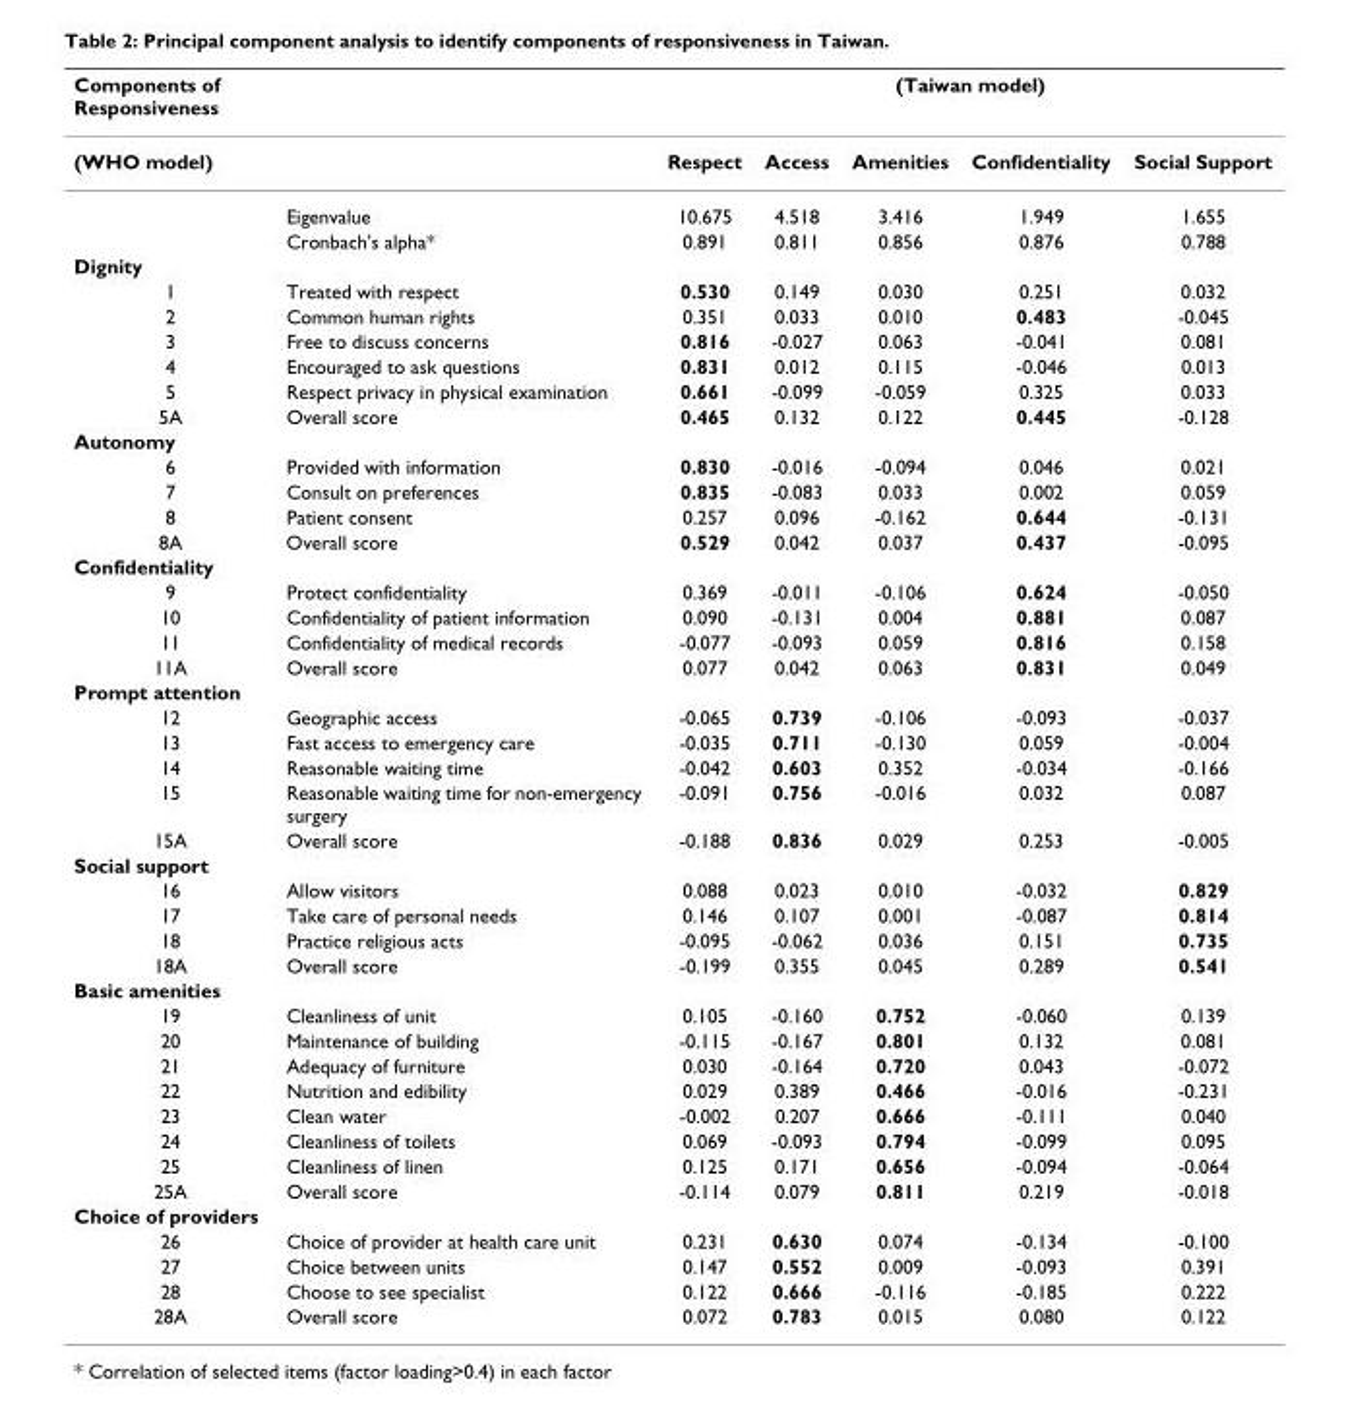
<table><thead><tr><td rowspan="2">Components of Responsiveness (WHO model)</td><td rowspan="2"></td><td colspan="5">(Taiwan model)</td></tr><tr><td>Respect</td><td>Access</td><td>Amenities</td><td>Confidentiality</td><td>Social Support</td></tr></thead><tbody><tr><td></td><td>Eigenvalue</td><td>10.675</td><td>4.518</td><td>3.416</td><td>1.949</td><td>1.655</td></tr><tr><td></td><td>Cronbach&#x27;s alpha*</td><td>0.891</td><td>0.811</td><td>0.856</td><td>0.876</td><td>0.788</td></tr><tr><td colspan="7">Dignity</td></tr><tr><td>1</td><td>Treated with respect</td><td>0.530</td><td>0.149</td><td>0.030</td><td>0.251</td><td>0.032</td></tr><tr><td>2</td><td>Common human rights</td><td>0.351</td><td>0.033</td><td>0.010</td><td>0.483</td><td>-0.045</td></tr><tr><td>3</td><td>Free to discuss concerns</td><td>0.816</td><td>-0.027</td><td>0.063</td><td>-0.041</td><td>0.081</td></tr><tr><td>4</td><td>Encouraged to ask questions</td><td>0.831</td><td>0.012</td><td>0.115</td><td>-0.046</td><td>0.013</td></tr><tr><td>5</td><td>Respect privacy in physical examination</td><td>0.661</td><td>-0.099</td><td>-0.059</td><td>0.325</td><td>0.033</td></tr><tr><td>5A</td><td>Overall score</td><td>0.465</td><td>0.132</td><td>0.122</td><td>0.445</td><td>-0.128</td></tr><tr><td colspan="7">Autonomy</td></tr><tr><td>6</td><td>Provided with information</td><td>0.830</td><td>-0.016</td><td>-0.094</td><td>0.046</td><td>0.021</td></tr><tr><td>7</td><td>Consult on preferences</td><td>0.835</td><td>-0.083</td><td>0.033</td><td>0.002</td><td>0.059</td></tr><tr><td>8</td><td>Patient consent</td><td>0.257</td><td>0.096</td><td>-0.162</td><td>0.644</td><td>-0.131</td></tr><tr><td>8A</td><td>Overall score</td><td>0.529</td><td>0.042</td><td>0.037</td><td>0.437</td><td>-0.095</td></tr><tr><td colspan="7">Confidentiality</td></tr><tr><td>9</td><td>Protect confidentiality</td><td>0.369</td><td>-0.011</td><td>-0.106</td><td>0.624</td><td>-0.050</td></tr><tr><td>10</td><td>Confidentiality of patient information</td><td>0.090</td><td>-0.131</td><td>0.004</td><td>0.881</td><td>0.087</td></tr><tr><td>11</td><td>Confidentiality of medical records</td><td>-0.077</td><td>-0.093</td><td>0.059</td><td>0.816</td><td>0.158</td></tr><tr><td>11A</td><td>Overall score</td><td>0.077</td><td>0.042</td><td>0.063</td><td>0.831</td><td>0.049</td></tr><tr><td colspan="7">Prompt attention</td></tr><tr><td>12</td><td>Geographic access</td><td>-0.065</td><td>0.739</td><td>-0.106</td><td>-0.093</td><td>-0.037</td></tr><tr><td>13</td><td>Fast access to emergency care</td><td>-0.035</td><td>0.711</td><td>-0.130</td><td>0.059</td><td>-0.004</td></tr><tr><td>14</td><td>Reasonable waiting time</td><td>-0.042</td><td>0.603</td><td>0.352</td><td>-0.034</td><td>-0.166</td></tr><tr><td>15</td><td>Reasonable waiting time for non-emergency surgery</td><td>-0.091</td><td>0.756</td><td>-0.016</td><td>0.032</td><td>0.087</td></tr><tr><td>15A</td><td>Overall score</td><td>-0.188</td><td>0.836</td><td>0.029</td><td>0.253</td><td>-0.005</td></tr><tr><td colspan="7">Social support</td></tr><tr><td>16</td><td>Allow visitors</td><td>0.088</td><td>0.023</td><td>0.010</td><td>-0.032</td><td>0.829</td></tr><tr><td>17</td><td>Take care of personal needs</td><td>0.146</td><td>0.107</td><td>0.001</td><td>-0.087</td><td>0.814</td></tr><tr><td>18</td><td>Practice religious acts</td><td>-0.095</td><td>-0.062</td><td>0.036</td><td>0.151</td><td>0.735</td></tr><tr><td>18A</td><td>Overall score</td><td>-0.199</td><td>0.355</td><td>0.045</td><td>0.289</td><td>0.541</td></tr><tr><td colspan="7">Basic amenities</td></tr><tr><td>19</td><td>Cleanliness of unit</td><td>0.105</td><td>-0.160</td><td>0.752</td><td>-0.060</td><td>0.139</td></tr><tr><td>20</td><td>Maintenance of building</td><td>-0.115</td><td>-0.167</td><td>0.801</td><td>0.132</td><td>0.081</td></tr><tr><td>21</td><td>Adequacy of furniture</td><td>0.030</td><td>-0.164</td><td>0.720</td><td>0.043</td><td>-0.072</td></tr><tr><td>22</td><td>Nutrition and edibility</td><td>0.029</td><td>0.389</td><td>0.466</td><td>-0.016</td><td>-0.231</td></tr><tr><td>23</td><td>Clean water</td><td>-0.002</td><td>0.207</td><td>0.666</td><td>-0.111</td><td>0.040</td></tr><tr><td>24</td><td>Cleanliness of toilets</td><td>0.069</td><td>-0.093</td><td>0.794</td><td>-0.099</td><td>0.095</td></tr><tr><td>25</td><td>Cleanliness of linen</td><td>0.125</td><td>0.171</td><td>0.656</td><td>-0.094</td><td>-0.064</td></tr><tr><td>25A</td><td>Overall score</td><td>-0.114</td><td>0.079</td><td>0.811</td><td>0.219</td><td>-0.018</td></tr><tr><td colspan="7">Choice of providers</td></tr><tr><td>26</td><td>Choice of provider at health care unit</td><td>0.231</td><td>0.630</td><td>0.074</td><td>-0.134</td><td>-0.100</td></tr><tr><td>27</td><td>Choice between units</td><td>0.147</td><td>0.552</td><td>0.009</td><td>-0.093</td><td>0.391</td></tr><tr><td>28</td><td>Choose to see specialist</td><td>0.122</td><td>0.666</td><td>-0.116</td><td>-0.185</td><td>0.222</td></tr><tr><td>28A</td><td>Overall score</td><td>0.072</td><td>0.783</td><td>0.015</td><td>0.080</td><td>0.122</td></tr></tbody></table>